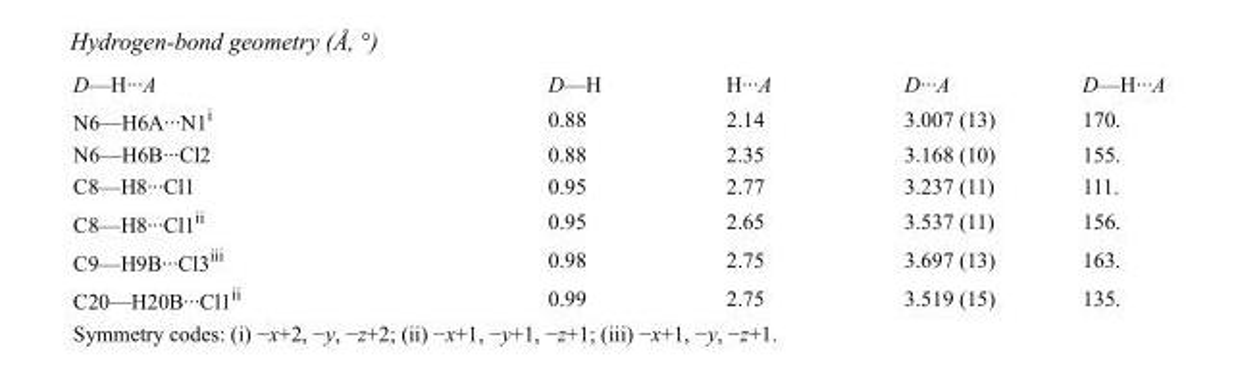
<table><tbody><tr><td>D—H···A</td><td>D—H</td><td>H···A</td><td>D···A</td><td>D—H···A</td></tr><tr><td>N6—H6A···N1<sup>i</sup></td><td>0.88</td><td>2.14</td><td>3.007 (13)</td><td>170.</td></tr><tr><td>N6—H6B···Cl2</td><td>0.88</td><td>2.35</td><td>3.168 (10)</td><td>155.</td></tr><tr><td>C8—H8···Cl1</td><td>0.95</td><td>2.77</td><td>3.237 (11)</td><td>111.</td></tr><tr><td>C8—H8···Cl1<sup>ii</sup></td><td>0.95</td><td>2.65</td><td>3.537 (11)</td><td>156.</td></tr><tr><td>C9—H9B···Cl3<sup>iii</sup></td><td>0.98</td><td>2.75</td><td>3.697 (13)</td><td>163.</td></tr><tr><td>C20—H20B···Cl1<sup>ii</sup></td><td>0.99</td><td>2.75</td><td>3.519 (15)</td><td>135.</td></tr></tbody></table>